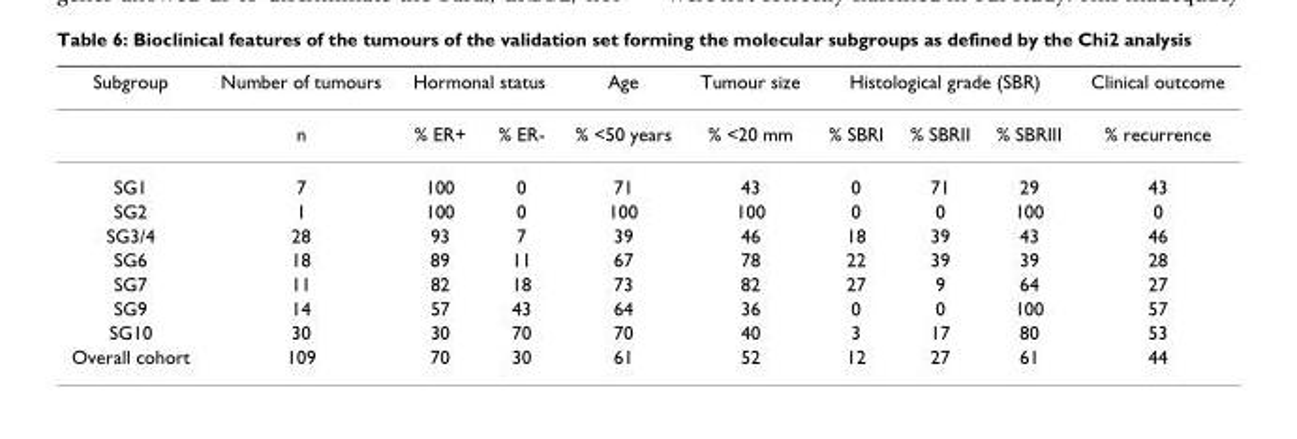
<table><thead><tr><td rowspan="2">Subgroup</td><td rowspan="2">Number of tumours n</td><td colspan="2">Hormonal status</td><td rowspan="2">Age % &lt;50 years</td><td rowspan="2">Tumour size % &lt;20 mm</td><td colspan="3">Histological grade (SBR)</td><td rowspan="2">Clinical outcome % recurrence</td></tr><tr><td>% ER+</td><td>% ER-</td><td>% SBRI</td><td>% SBRII</td><td>% SBRIII</td></tr></thead><tbody><tr><td>SG1</td><td>7</td><td>100</td><td>0</td><td>71</td><td>43</td><td>0</td><td>71</td><td>29</td><td>43</td></tr><tr><td>SG2</td><td>1</td><td>100</td><td>0</td><td>100</td><td>100</td><td>0</td><td>0</td><td>100</td><td>0</td></tr><tr><td>SG3/4</td><td>28</td><td>93</td><td>7</td><td>39</td><td>46</td><td>18</td><td>39</td><td>43</td><td>46</td></tr><tr><td>SG6</td><td>18</td><td>89</td><td>11</td><td>67</td><td>78</td><td>22</td><td>39</td><td>39</td><td>28</td></tr><tr><td>SG7</td><td>11</td><td>82</td><td>18</td><td>73</td><td>82</td><td>27</td><td>9</td><td>64</td><td>27</td></tr><tr><td>SG9</td><td>14</td><td>57</td><td>43</td><td>64</td><td>36</td><td>0</td><td>0</td><td>100</td><td>57</td></tr><tr><td>SG10</td><td>30</td><td>30</td><td>70</td><td>70</td><td>40</td><td>3</td><td>17</td><td>80</td><td>53</td></tr><tr><td>Overall cohort</td><td>109</td><td>70</td><td>30</td><td>61</td><td>52</td><td>12</td><td>27</td><td>61</td><td>44</td></tr></tbody></table>